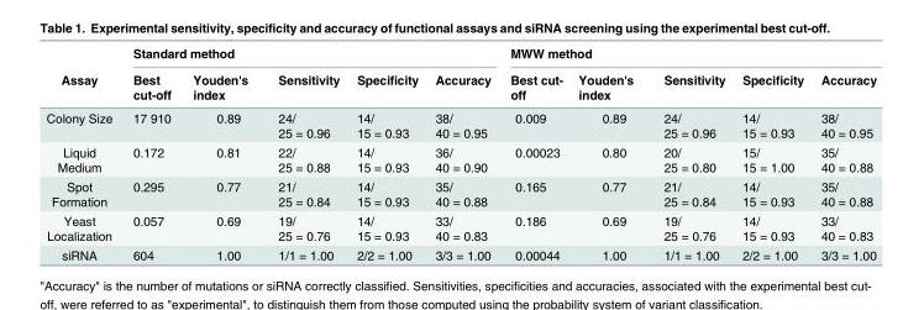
<table><thead><tr><td rowspan="2">Assay</td><td colspan="5">Standard method</td><td colspan="5">MWW method</td></tr><tr><td>Best cut-off</td><td>Youden&#x27;s index</td><td>Sensitivity</td><td>Specificity</td><td>Accuracy</td><td>Best cut- off</td><td>Youden&#x27;s index</td><td>Sensitivity</td><td>Specificity</td><td>Accuracy</td></tr></thead><tbody><tr><td>Colony Size</td><td>17 910</td><td>0.89</td><td>24/ 25 = 0.96</td><td>14/ 15 = 0.93</td><td>38/ 40 = 0.95</td><td>0.009</td><td>0.89</td><td>24/ 25 = 0.96</td><td>14/ 15 = 0.93</td><td>38/ 40 = 0.95</td></tr><tr><td>Liquid Medium</td><td>0.172</td><td>0.81</td><td>22/ 25 = 0.88</td><td>14/ 15 = 0.93</td><td>36/ 40 = 0.90</td><td>0.00023</td><td>0.80</td><td>20/ 25 = 0.80</td><td>15/ 15 = 1.00</td><td>35/ 40 = 0.88</td></tr><tr><td>Spot Formation</td><td>0.295</td><td>0.77</td><td>21/ 25 = 0.84</td><td>14/ 15 = 0.93</td><td>35/ 40 = 0.88</td><td>0.165</td><td>0.77</td><td>21/ 25 = 0.84</td><td>14/ 15 = 0.93</td><td>35/ 40 = 0.88</td></tr><tr><td>Yeast Localization</td><td>0.057</td><td>0.69</td><td>19/ 25 = 0.76</td><td>14/ 15 = 0.93</td><td>33/ 40 = 0.83</td><td>0.186</td><td>0.69</td><td>19/ 25 = 0.76</td><td>14/ 15 = 0.93</td><td>33/ 40 = 0.83</td></tr><tr><td>siRNA</td><td>604</td><td>1.00</td><td>1/1 = 1.00</td><td>2/2 = 1.00</td><td>3/3 = 1.00</td><td>0.00044</td><td>1.00</td><td>1/1 = 1.00</td><td>2/2 = 1.00</td><td>3/3 = 1.00</td></tr></tbody></table>